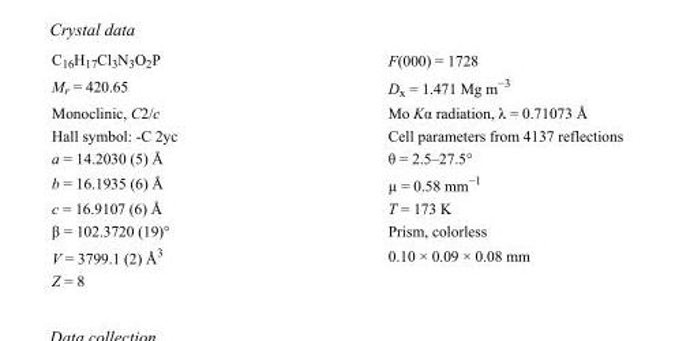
<table><tbody><tr><td>C<sub>16</sub>H<sub>17</sub>Cl<sub>3</sub>N<sub>3</sub>O<sub>2</sub>P</td><td>F(000) = 1728</td></tr><tr><td>M<sub>r</sub> = 420.65</td><td>D<sub>x</sub> = 1.471 Mg m<sup>−3</sup></td></tr><tr><td>Monoclinic, C2/c</td><td>Mo Kα radiation, λ = 0.71073 Å</td></tr><tr><td>Hall symbol: -C 2yc</td><td>Cell parameters from 4137 reflections</td></tr><tr><td>a = 14.2030 (5) Å</td><td>θ = 2.5–27.5°</td></tr><tr><td>b = 16.1935 (6) Å</td><td>µ = 0.58 mm<sup>−1</sup></td></tr><tr><td>c = 16.9107 (6) Å</td><td>T = 173 K</td></tr><tr><td>β = 102.3720 (19)°</td><td>Prism, colorless</td></tr><tr><td>V = 3799.1 (2) Å<sup>3</sup></td><td>0.10 × 0.09 × 0.08 mm</td></tr><tr><td>Z = 8</td><td></td></tr></tbody></table>